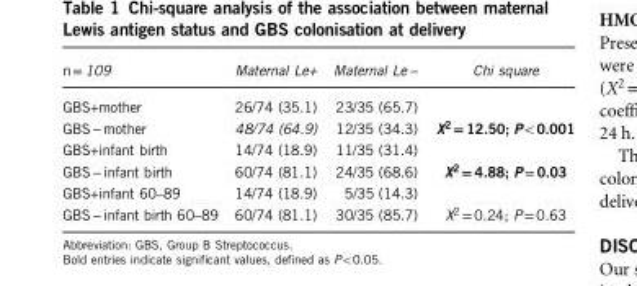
<table><thead><tr><td>n = 109</td><td>Maternal Le+</td><td>Maternal Le −</td><td>Chi square</td></tr></thead><tbody><tr><td>GBS+mother</td><td>26/74 (35.1)</td><td>23/35 (65.7)</td><td></td></tr><tr><td>GBS − mother</td><td>48/74 (64.9)</td><td>12/35 (34.3)</td><td>X<sup>2</sup> = 12.50; P&lt;0.001</td></tr><tr><td>GBS+infant birth</td><td>14/74 (18.9)</td><td>11/35 (31.4)</td><td></td></tr><tr><td>GBS − infant birth</td><td>60/74 (81.1)</td><td>24/35 (68.6)</td><td>X<sup>2</sup> = 4.88; P = 0.03</td></tr><tr><td>GBS+infant 60–89</td><td>14/74 (18.9)</td><td>5/35 (14.3)</td><td></td></tr><tr><td>GBS − infant birth 60–89</td><td>60/74 (81.1)</td><td>30/35 (85.7)</td><td>X<sup>2</sup> = 0.24; P = 0.63</td></tr></tbody></table>